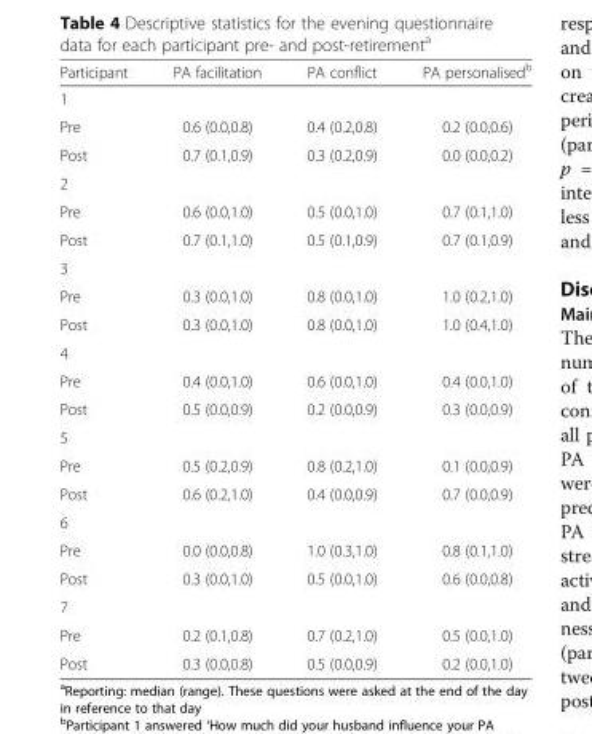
<table><thead><tr><td>Participant</td><td>PA facilitation</td><td>PA conflict</td><td>PA personalised<sup>b</sup></td></tr></thead><tbody><tr><td colspan="4">1</td></tr><tr><td>Pre</td><td>0.6 (0.0,0.8)</td><td>0.4 (0.2,0.8)</td><td>0.2 (0.0,0.6)</td></tr><tr><td>Post</td><td>0.7 (0.1,0.9)</td><td>0.3 (0.2,0.9)</td><td>0.0 (0.0,0.2)</td></tr><tr><td colspan="4">2</td></tr><tr><td>Pre</td><td>0.6 (0.0,1.0)</td><td>0.5 (0.0,1.0)</td><td>0.7 (0.1,1.0)</td></tr><tr><td>Post</td><td>0.7 (0.1,1.0)</td><td>0.5 (0.1,0.9)</td><td>0.7 (0.1,0.9)</td></tr><tr><td colspan="4">3</td></tr><tr><td>Pre</td><td>0.3 (0.0,1.0)</td><td>0.8 (0.0,1.0)</td><td>1.0 (0.2,1.0)</td></tr><tr><td>Post</td><td>0.3 (0.0,1.0)</td><td>0.8 (0.0,1.0)</td><td>1.0 (0.4,1.0)</td></tr><tr><td colspan="4">4</td></tr><tr><td>Pre</td><td>0.4 (0.0,1.0)</td><td>0.6 (0.0,1.0)</td><td>0.4 (0.0,1.0)</td></tr><tr><td>Post</td><td>0.5 (0.0,0.9)</td><td>0.2 (0.0,0.9)</td><td>0.3 (0.0,0.9)</td></tr><tr><td colspan="4">5</td></tr><tr><td>Pre</td><td>0.5 (0.2,0.9)</td><td>0.8 (0.2,1.0)</td><td>0.1 (0.0,0.9)</td></tr><tr><td>Post</td><td>0.6 (0.2,1.0)</td><td>0.4 (0.0,0.9)</td><td>0.7 (0.0,0.9)</td></tr><tr><td colspan="4">6</td></tr><tr><td>Pre</td><td>0.0 (0.0,0.8)</td><td>1.0 (0.3,1.0)</td><td>0.8 (0.1,1.0)</td></tr><tr><td>Post</td><td>0.3 (0.0,1.0)</td><td>0.5 (0.0,1.0)</td><td>0.6 (0.0,0.8)</td></tr><tr><td colspan="4">7</td></tr><tr><td>Pre</td><td>0.2 (0.1,0.8)</td><td>0.7 (0.2,1.0)</td><td>0.5 (0.0,1.0)</td></tr><tr><td>Post</td><td>0.3 (0.0,0.8)</td><td>0.5 (0.0,0.9)</td><td>0.2 (0.0,1.0)</td></tr></tbody></table>